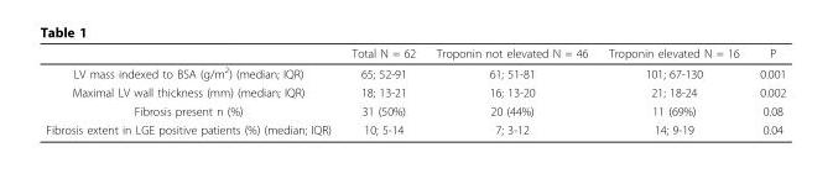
<table><thead><tr><td></td><td>Total N = 62</td><td>Troponin not elevated N = 46</td><td>Troponin elevated N = 16</td><td>P</td></tr></thead><tbody><tr><td>LV mass indexed to BSA (g/m<sup>2</sup>) (median; IQR)</td><td>65; 52-91</td><td>61; 51-81</td><td>101; 67-130</td><td>0.001</td></tr><tr><td>Maximal LV wall thickness (mm) (median; IQR)</td><td>18; 13-21</td><td>16; 13-20</td><td>21; 18-24</td><td>0.002</td></tr><tr><td>Fibrosis present n (%)</td><td>31 (50%)</td><td>20 (44%)</td><td>11 (69%)</td><td>0.08</td></tr><tr><td>Fibrosis extent in LGE positive patients (%) (median; IQR)</td><td>10; 5-14</td><td>7; 3-12</td><td>14; 9-19</td><td>0.04</td></tr></tbody></table>